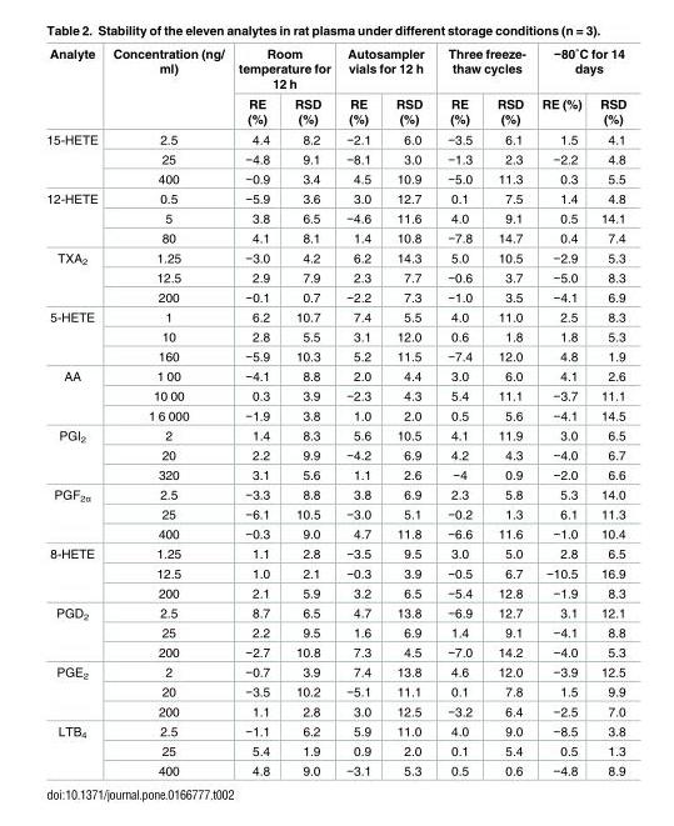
<table><thead><tr><td rowspan="2">Analyte</td><td rowspan="2">Concentration (ng/ ml)</td><td colspan="2">Room temperature for 12 h</td><td colspan="2">Autosampler vials for 12 h</td><td colspan="2">Three freeze- thaw cycles</td><td colspan="2">−80˚C for 14 days</td></tr><tr><td>RE (%)</td><td>RSD (%)</td><td>RE (%)</td><td>RSD (%)</td><td>RE (%)</td><td>RSD (%)</td><td>RE (%)</td><td>RSD (%)</td></tr></thead><tbody><tr><td rowspan="3">15-HETE</td><td>2.5</td><td>4.4</td><td>8.2</td><td>−2.1</td><td>6.0</td><td>−3.5</td><td>6.1</td><td>1.5</td><td>4.1</td></tr><tr><td>25</td><td>−4.8</td><td>9.1</td><td>−8.1</td><td>3.0</td><td>−1.3</td><td>2.3</td><td>−2.2</td><td>4.8</td></tr><tr><td>400</td><td>−0.9</td><td>3.4</td><td>4.5</td><td>10.9</td><td>−5.0</td><td>11.3</td><td>0.3</td><td>5.5</td></tr><tr><td rowspan="3">12-HETE</td><td>0.5</td><td>−5.9</td><td>3.6</td><td>3.0</td><td>12.7</td><td>0.1</td><td>7.5</td><td>1.4</td><td>4.8</td></tr><tr><td>5</td><td>3.8</td><td>6.5</td><td>−4.6</td><td>11.6</td><td>4.0</td><td>9.1</td><td>0.5</td><td>14.1</td></tr><tr><td>80</td><td>4.1</td><td>8.1</td><td>1.4</td><td>10.8</td><td>−7.8</td><td>14.7</td><td>0.4</td><td>7.4</td></tr><tr><td rowspan="3">TXA<sub>2</sub></td><td>1.25</td><td>−3.0</td><td>4.2</td><td>6.2</td><td>14.3</td><td>5.0</td><td>10.5</td><td>−2.9</td><td>5.3</td></tr><tr><td>12.5</td><td>2.9</td><td>7.9</td><td>2.3</td><td>7.7</td><td>−0.6</td><td>3.7</td><td>−5.0</td><td>8.3</td></tr><tr><td>200</td><td>−0.1</td><td>0.7</td><td>−2.2</td><td>7.3</td><td>−1.0</td><td>3.5</td><td>−4.1</td><td>6.9</td></tr><tr><td rowspan="3">5-HETE</td><td>1</td><td>6.2</td><td>10.7</td><td>7.4</td><td>5.5</td><td>4.0</td><td>11.0</td><td>2.5</td><td>8.3</td></tr><tr><td>10</td><td>2.8</td><td>5.5</td><td>3.1</td><td>12.0</td><td>0.6</td><td>1.8</td><td>1.8</td><td>5.3</td></tr><tr><td>160</td><td>−5.9</td><td>10.3</td><td>5.2</td><td>11.5</td><td>−7.4</td><td>12.0</td><td>4.8</td><td>1.9</td></tr><tr><td rowspan="3">AA</td><td>1 00</td><td>−4.1</td><td>8.8</td><td>2.0</td><td>4.4</td><td>3.0</td><td>6.0</td><td>4.1</td><td>2.6</td></tr><tr><td>10 00</td><td>0.3</td><td>3.9</td><td>−2.3</td><td>4.3</td><td>5.4</td><td>11.1</td><td>−3.7</td><td>11.1</td></tr><tr><td>1 6 000</td><td>−1.9</td><td>3.8</td><td>1.0</td><td>2.0</td><td>0.5</td><td>5.6</td><td>−4.1</td><td>14.5</td></tr><tr><td rowspan="3">PGI<sub>2</sub></td><td>2</td><td>1.4</td><td>8.3</td><td>5.6</td><td>10.5</td><td>4.1</td><td>11.9</td><td>3.0</td><td>6.5</td></tr><tr><td>20</td><td>2.2</td><td>9.9</td><td>−4.2</td><td>6.9</td><td>4.2</td><td>4.3</td><td>−4.0</td><td>6.7</td></tr><tr><td>320</td><td>3.1</td><td>5.6</td><td>1.1</td><td>2.6</td><td>−4</td><td>0.9</td><td>−2.0</td><td>6.6</td></tr><tr><td rowspan="3">PGF<sub>2α</sub></td><td>2.5</td><td>−3.3</td><td>8.8</td><td>3.8</td><td>6.9</td><td>2.3</td><td>5.8</td><td>5.3</td><td>14.0</td></tr><tr><td>25</td><td>−6.1</td><td>10.5</td><td>−3.0</td><td>5.1</td><td>−0.2</td><td>1.3</td><td>6.1</td><td>11.3</td></tr><tr><td>400</td><td>−0.3</td><td>9.0</td><td>4.7</td><td>11.8</td><td>−6.6</td><td>11.6</td><td>−1.0</td><td>10.4</td></tr><tr><td rowspan="3">8-HETE</td><td>1.25</td><td>1.1</td><td>2.8</td><td>−3.5</td><td>9.5</td><td>3.0</td><td>5.0</td><td>2.8</td><td>6.5</td></tr><tr><td>12.5</td><td>1.0</td><td>2.1</td><td>−0.3</td><td>3.9</td><td>−0.5</td><td>6.7</td><td>−10.5</td><td>16.9</td></tr><tr><td>200</td><td>2.1</td><td>5.9</td><td>3.2</td><td>6.5</td><td>−5.4</td><td>12.8</td><td>−1.9</td><td>8.3</td></tr><tr><td rowspan="3">PGD<sub>2</sub></td><td>2.5</td><td>8.7</td><td>6.5</td><td>4.7</td><td>13.8</td><td>−6.9</td><td>12.7</td><td>3.1</td><td>12.1</td></tr><tr><td>25</td><td>2.2</td><td>9.5</td><td>1.6</td><td>6.9</td><td>1.4</td><td>9.1</td><td>−4.1</td><td>8.8</td></tr><tr><td>200</td><td>−2.7</td><td>10.8</td><td>7.3</td><td>4.5</td><td>−7.0</td><td>14.2</td><td>−4.0</td><td>5.3</td></tr><tr><td rowspan="3">PGE<sub>2</sub></td><td>2</td><td>−0.7</td><td>3.9</td><td>7.4</td><td>13.8</td><td>4.6</td><td>12.0</td><td>−3.9</td><td>12.5</td></tr><tr><td>20</td><td>−3.5</td><td>10.2</td><td>−5.1</td><td>11.1</td><td>0.1</td><td>7.8</td><td>1.5</td><td>9.9</td></tr><tr><td>200</td><td>1.1</td><td>2.8</td><td>3.0</td><td>12.5</td><td>−3.2</td><td>6.4</td><td>−2.5</td><td>7.0</td></tr><tr><td rowspan="3">LTB<sub>4</sub></td><td>2.5</td><td>−1.1</td><td>6.2</td><td>5.9</td><td>11.0</td><td>4.0</td><td>9.0</td><td>−8.5</td><td>3.8</td></tr><tr><td>25</td><td>5.4</td><td>1.9</td><td>0.9</td><td>2.0</td><td>0.1</td><td>5.4</td><td>0.5</td><td>1.3</td></tr><tr><td>400</td><td>4.8</td><td>9.0</td><td>−3.1</td><td>5.3</td><td>0.5</td><td>0.6</td><td>−4.8</td><td>8.9</td></tr></tbody></table>